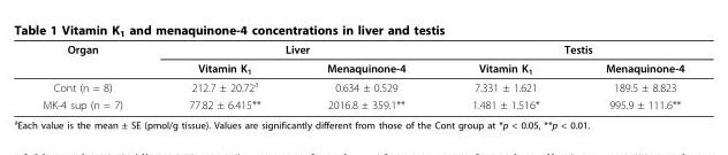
<table><thead><tr><td rowspan="2">Organ</td><td colspan="2">Liver</td><td colspan="2">Testis</td></tr><tr><td>Vitamin K<sub>1</sub></td><td>Menaquinone-4</td><td>Vitamin K<sub>1</sub></td><td>Menaquinone-4</td></tr></thead><tbody><tr><td>Cont (n = 8)</td><td>212.7 ± 20.72<sup>a</sup></td><td>0.634 ± 0.529</td><td>7.331 ± 1.621</td><td>189.5 ± 8.823</td></tr><tr><td>MK-4 sup (n = 7)</td><td>77.82 ± 6.415**</td><td>2016.8 ± 359.1**</td><td>1.481 ± 1.516*</td><td>995.9 ± 111.6**</td></tr></tbody></table>